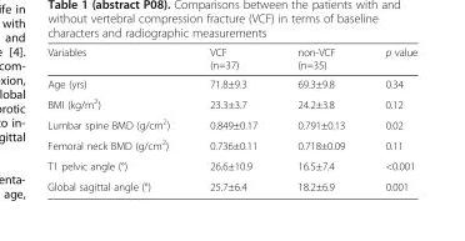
<table><thead><tr><td>Variables</td><td>VCF (n=37)</td><td>non-VCF (n=35)</td><td>p value</td></tr></thead><tbody><tr><td>Age (yrs)</td><td>71.8±9.3</td><td>69.3±9.8</td><td>0.34</td></tr><tr><td>BMI (kg/m<sup>2</sup>)</td><td>23.3±3.7</td><td>24.2±3.8</td><td>0.12</td></tr><tr><td>Lumbar spine BMD (g/cm<sup>2</sup>)</td><td>0.849±0.17</td><td>0.791±0.13</td><td>0.02</td></tr><tr><td>Femoral neck BMD (g/cm<sup>2</sup>)</td><td>0.736±0.11</td><td>0.718±0.09</td><td>0.11</td></tr><tr><td>T1 pelvic angle (°)</td><td>26.6±10.9</td><td>16.5±7.4</td><td>&lt;0.001</td></tr><tr><td>Global sagittal angle (°)</td><td>25.7±6.4</td><td>18.2±6.9</td><td>0.001</td></tr></tbody></table>